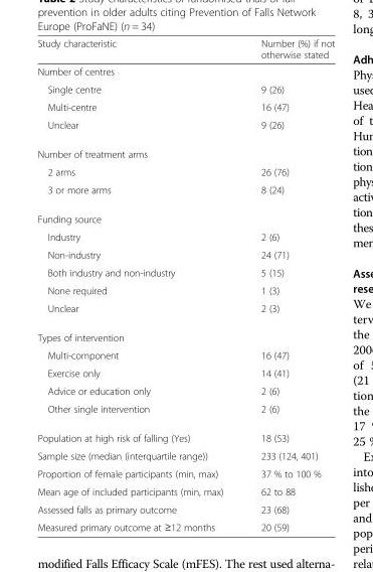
<table><thead><tr><td>Study characteristic</td><td>Number (%) if not otherwise stated</td></tr></thead><tbody><tr><td colspan="2">Number of centres</td></tr><tr><td>Single centre</td><td>9 (26)</td></tr><tr><td>Multi-centre</td><td>16 (47)</td></tr><tr><td>Unclear</td><td>9 (26)</td></tr><tr><td colspan="2">Number of treatment arms</td></tr><tr><td>2 arms</td><td>26 (76)</td></tr><tr><td>3 or more arms</td><td>8 (24)</td></tr><tr><td colspan="2">Funding source</td></tr><tr><td>Industry</td><td>2 (6)</td></tr><tr><td>Non-industry</td><td>24 (71)</td></tr><tr><td>Both industry and non-industry</td><td>5 (15)</td></tr><tr><td>None required</td><td>1 (3)</td></tr><tr><td>Unclear</td><td>2 (3)</td></tr><tr><td colspan="2">Types of intervention</td></tr><tr><td>Multi-component</td><td>16 (47)</td></tr><tr><td>Exercise only</td><td>14 (41)</td></tr><tr><td>Advice or education only</td><td>2 (6)</td></tr><tr><td>Other single intervention</td><td>2 (6)</td></tr><tr><td>Population at high risk of falling (Yes)</td><td>18 (53)</td></tr><tr><td>Sample size (median (interquartile range))</td><td>233 (124, 401)</td></tr><tr><td>Proportion of female participants (min, max)</td><td>37 % to 100 %</td></tr><tr><td>Mean age of included participants (min, max)</td><td>62 to 88</td></tr><tr><td>Assessed falls as primary outcome</td><td>23 (68)</td></tr><tr><td>Measured primary outcome at ≥12 months</td><td>20 (59)</td></tr></tbody></table>